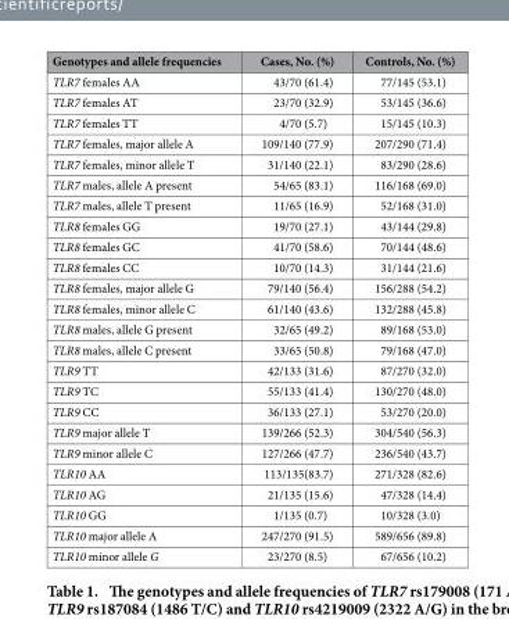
<table><thead><tr><td>Genotypes and allele frequencies</td><td>Cases, No. (%)</td><td>Controls, No. (%)</td></tr></thead><tbody><tr><td>TLR7 females AA</td><td>43/70 (61.4)</td><td>77/145 (53.1)</td></tr><tr><td>TLR7 females AT</td><td>23/70 (32.9)</td><td>53/145 (36.6)</td></tr><tr><td>TLR7 females TT</td><td>4/70 (5.7)</td><td>15/145 (10.3)</td></tr><tr><td>TLR7 females, major allele A</td><td>109/140 (77.9)</td><td>207/290 (71.4)</td></tr><tr><td>TLR7 females, minor allele T</td><td>31/140 (22.1)</td><td>83/290 (28.6)</td></tr><tr><td>TLR7 males, allele A present</td><td>54/65 (83.1)</td><td>116/168 (69.0)</td></tr><tr><td>TLR7 males, allele T present</td><td>11/65 (16.9)</td><td>52/168 (31.0)</td></tr><tr><td>TLR8 females GG</td><td>19/70 (27.1)</td><td>43/144 (29.8)</td></tr><tr><td>TLR8 females GC</td><td>41/70 (58.6)</td><td>70/144 (48.6)</td></tr><tr><td>TLR8 females CC</td><td>10/70 (14.3)</td><td>31/144 (21.6)</td></tr><tr><td>TLR8 females, major allele G</td><td>79/140 (56.4)</td><td>156/288 (54.2)</td></tr><tr><td>TLR8 females, minor allele C</td><td>61/140 (43.6)</td><td>132/288 (45.8)</td></tr><tr><td>TLR8 males, allele G present</td><td>32/65 (49.2)</td><td>89/168 (53.0)</td></tr><tr><td>TLR8 males, allele C present</td><td>33/65 (50.8)</td><td>79/168 (47.0)</td></tr><tr><td>TLR9 TT</td><td>42/133 (31.6)</td><td>87/270 (32.0)</td></tr><tr><td>TLR9 TC</td><td>55/133 (41.4)</td><td>130/270 (48.0)</td></tr><tr><td>TLR9 CC</td><td>36/133 (27.1)</td><td>53/270 (20.0)</td></tr><tr><td>TLR9 major allele T</td><td>139/266 (52.3)</td><td>304/540 (56.3)</td></tr><tr><td>TLR9 minor allele C</td><td>127/266 (47.7)</td><td>236/540 (43.7)</td></tr><tr><td>TLR10 AA</td><td>113/135(83.7)</td><td>271/328 (82.6)</td></tr><tr><td>TLR10 AG</td><td>21/135 (15.6)</td><td>47/328 (14.4)</td></tr><tr><td>TLR10 GG</td><td>1/135 (0.7)</td><td>10/328 (3.0)</td></tr><tr><td>TLR10 major allele A</td><td>247/270 (91.5)</td><td>589/656 (89.8)</td></tr><tr><td>TLR10 minor allele G</td><td>23/270 (8.5)</td><td>67/656 (10.2)</td></tr></tbody></table>